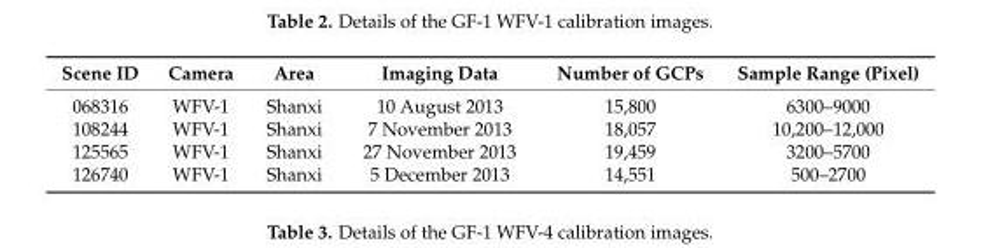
<table><thead><tr><td>Scene ID</td><td>Camera</td><td>Area</td><td>Imaging Data</td><td>Number of GCPs</td><td>Sample Range (Pixel)</td></tr></thead><tbody><tr><td>068316</td><td>WFV-1</td><td>Shanxi</td><td>10 August 2013</td><td>15,800</td><td>6300–9000</td></tr><tr><td>108244</td><td>WFV-1</td><td>Shanxi</td><td>7 November 2013</td><td>18,057</td><td>10,200–12,000</td></tr><tr><td>125565</td><td>WFV-1</td><td>Shanxi</td><td>27 November 2013</td><td>19,459</td><td>3200–5700</td></tr><tr><td>126740</td><td>WFV-1</td><td>Shanxi</td><td>5 December 2013</td><td>14,551</td><td>500–2700</td></tr></tbody></table>